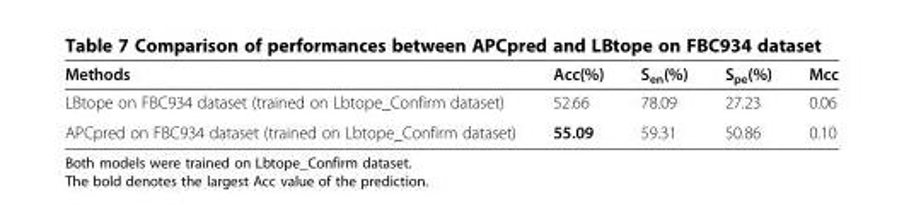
<table><thead><tr><td>Methods</td><td>Acc(%)</td><td>S<sub>en</sub>(%)</td><td>S<sub>pe</sub>(%)</td><td>Mcc</td></tr></thead><tbody><tr><td>LBtope on FBC934 dataset (trained on Lbtope_Confirm dataset)</td><td>52.66</td><td>78.09</td><td>27.23</td><td>0.06</td></tr><tr><td>APCpred on FBC934 dataset (trained on Lbtope_Confirm dataset)</td><td>55.09</td><td>59.31</td><td>50.86</td><td>0.10</td></tr></tbody></table>